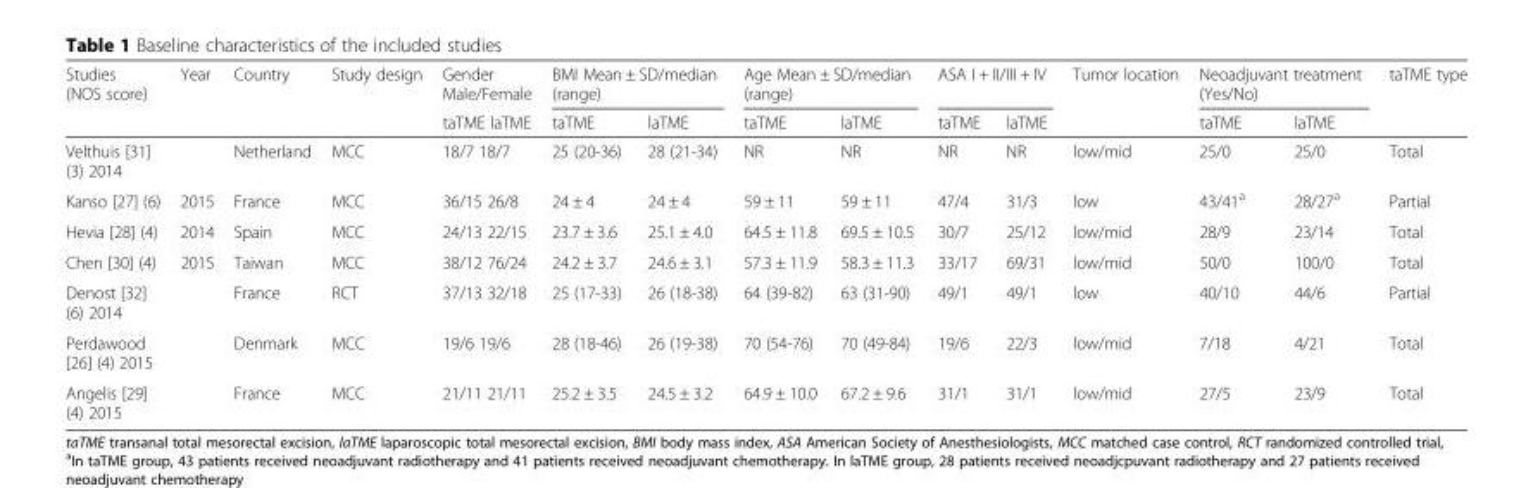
<table><thead><tr><td rowspan="2">Studies (NOS score)</td><td rowspan="2">Year</td><td rowspan="2">Country</td><td rowspan="2">Study design</td><td rowspan="2">Gender Male/Female taTME laTME</td><td colspan="2">BMI Mean ± SD/median (range)</td><td colspan="2">Age Mean ± SD/median (range)</td><td colspan="2">ASA I + II/III + IV</td><td rowspan="2">Tumor location</td><td colspan="2">Neoadjuvant treatment (Yes/No)</td><td rowspan="2">taTME type</td></tr><tr><td>taTME</td><td>laTME</td><td>taTME</td><td>laTME</td><td>taTME</td><td>laTME</td><td>taTME</td><td>laTME</td></tr></thead><tbody><tr><td colspan="2">Velthuis [31] (3) 2014</td><td>Netherland</td><td>MCC</td><td>18/7 18/7</td><td>25 (20-36)</td><td>28 (21-34)</td><td>NR</td><td>NR</td><td>NR</td><td>NR</td><td>low/mid</td><td>25/0</td><td>25/0</td><td>Total</td></tr><tr><td>Kanso [27] (6)</td><td>2015</td><td>France</td><td>MCC</td><td>36/15 26/8</td><td>24 ± 4</td><td>24 ± 4</td><td>59 ± 11</td><td>59 ± 11</td><td>47/4</td><td>31/3</td><td>low</td><td>43/41<sup>a</sup></td><td>28/27<sup>a</sup></td><td>Partial</td></tr><tr><td>Hevia [28] (4)</td><td>2014</td><td>Spain</td><td>MCC</td><td>24/13 22/15</td><td>23.7 ± 3.6</td><td>25.1 ± 4.0</td><td>64.5 ± 11.8</td><td>69.5 ± 10.5</td><td>30/7</td><td>25/12</td><td>low/mid</td><td>28/9</td><td>23/14</td><td>Total</td></tr><tr><td>Chen [30] (4)</td><td>2015</td><td>Taiwan</td><td>MCC</td><td>38/12 76/24</td><td>24.2 ± 3.7</td><td>24.6 ± 3.1</td><td>57.3 ± 11.9</td><td>58.3 ± 11.3</td><td>33/17</td><td>69/31</td><td>low/mid</td><td>50/0</td><td>100/0</td><td>Total</td></tr><tr><td colspan="2">Denost [32] (6) 2014</td><td>France</td><td>RCT</td><td>37/13 32/18</td><td>25 (17-33)</td><td>26 (18-38)</td><td>64 (39-82)</td><td>63 (31-90)</td><td>49/1</td><td>49/1</td><td>low</td><td>40/10</td><td>44/6</td><td>Partial</td></tr><tr><td colspan="2">Perdawood [26] (4) 2015</td><td>Denmark</td><td>MCC</td><td>19/6 19/6</td><td>28 (18-46)</td><td>26 (19-38)</td><td>70 (54-76)</td><td>70 (49-84)</td><td>19/6</td><td>22/3</td><td>low/mid</td><td>7/18</td><td>4/21</td><td>Total</td></tr><tr><td colspan="2">Angelis [29] (4) 2015</td><td>France</td><td>MCC</td><td>21/11 21/11</td><td>25.2 ± 3.5</td><td>24.5 ± 3.2</td><td>64.9 ± 10.0</td><td>67.2 ± 9.6</td><td>31/1</td><td>31/1</td><td>low/mid</td><td>27/5</td><td>23/9</td><td>Total</td></tr></tbody></table>